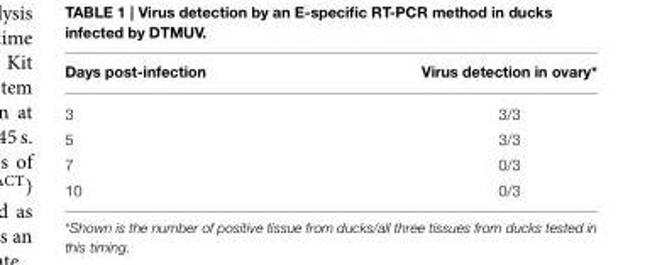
<table><thead><tr><td>Days post-infection</td><td>Virus detection in ovary*</td></tr></thead><tbody><tr><td>3</td><td>3/3</td></tr><tr><td>5</td><td>3/3</td></tr><tr><td>7</td><td>0/3</td></tr><tr><td>10</td><td>0/3</td></tr></tbody></table>